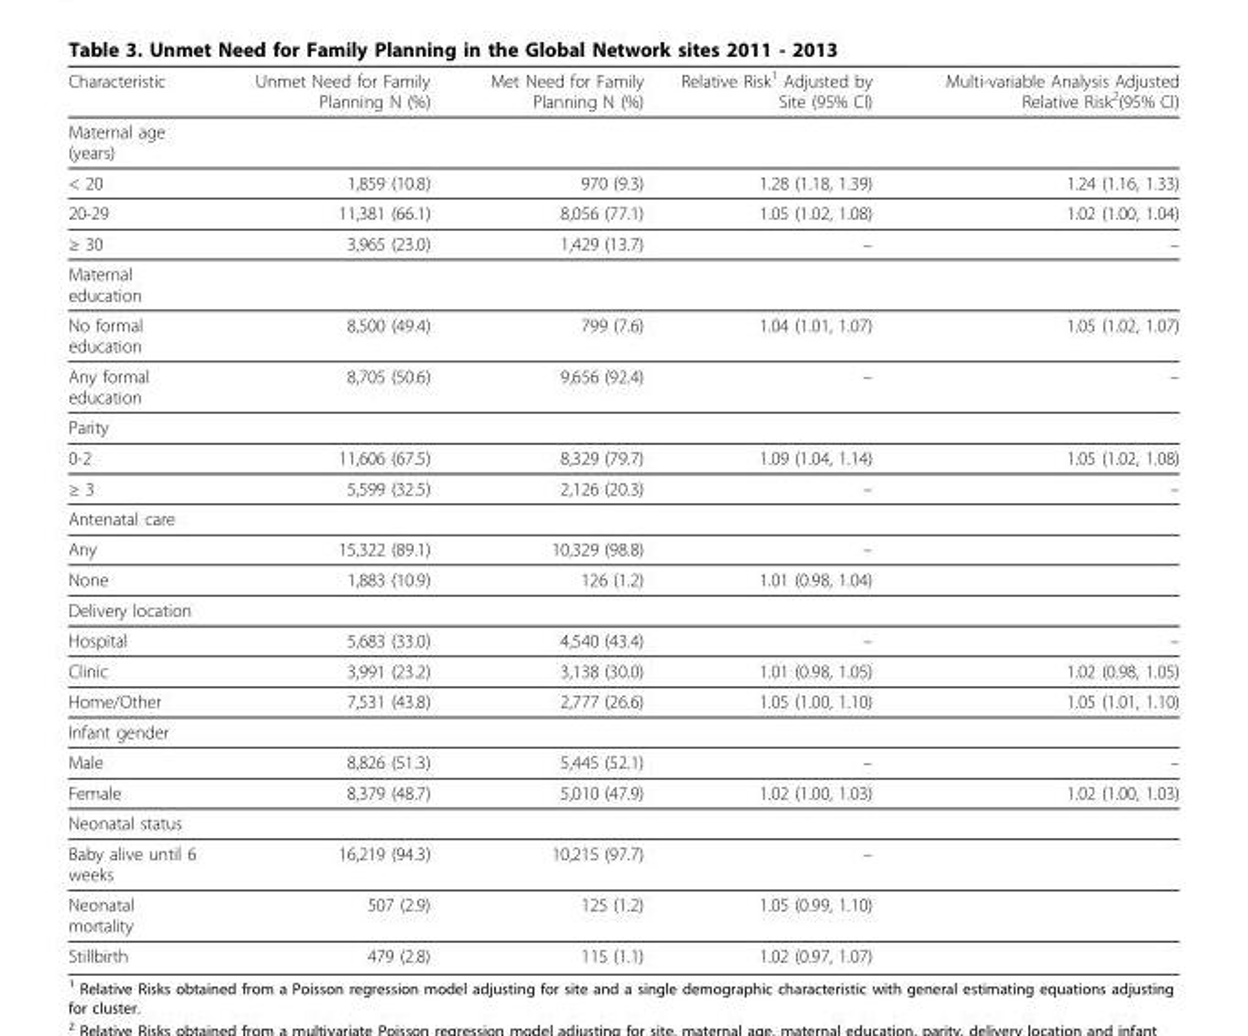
<table><thead><tr><td>Characteristic</td><td>Unmet Need for Family Planning N (%)</td><td>Met Need for Family Planning N (%)</td><td>Relative Risk1 Adjusted by Site (95% CI)</td><td>Multi-variable Analysis Adjusted Relative Risk2(95% CI)</td></tr></thead><tbody><tr><td colspan="5">Maternal age (years)</td></tr><tr><td>&lt; 20</td><td>1,859 (10.8)</td><td>970 (9.3)</td><td>1.28 (1.18, 1.39)</td><td>1.24 (1.16, 1.33)</td></tr><tr><td>20-29</td><td>11,381 (66.1)</td><td>8,056 (77.1)</td><td>1.05 (1.02, 1.08)</td><td>1.02 (1.00, 1.04)</td></tr><tr><td>≥ 30</td><td>3,965 (23.0)</td><td>1,429 (13.7)</td><td>–</td><td>–</td></tr><tr><td colspan="5">Maternal education</td></tr><tr><td>No formal education</td><td>8,500 (49.4)</td><td>799 (7.6)</td><td>1.04 (1.01, 1.07)</td><td>1.05 (1.02, 1.07)</td></tr><tr><td>Any formal education</td><td>8,705 (50.6)</td><td>9,656 (92.4)</td><td>–</td><td>–</td></tr><tr><td colspan="5">Parity</td></tr><tr><td>0-2</td><td>11,606 (67.5)</td><td>8,329 (79.7)</td><td>1.09 (1.04, 1.14)</td><td>1.05 (1.02, 1.08)</td></tr><tr><td>≥ 3</td><td>5,599 (32.5)</td><td>2,126 (20.3)</td><td>–</td><td>–</td></tr><tr><td colspan="5">Antenatal care</td></tr><tr><td>Any</td><td>15,322 (89.1)</td><td>10,329 (98.8)</td><td>–</td><td></td></tr><tr><td>None</td><td>1,883 (10.9)</td><td>126 (1.2)</td><td>1.01 (0.98, 1.04)</td><td></td></tr><tr><td colspan="5">Delivery location</td></tr><tr><td>Hospital</td><td>5,683 (33.0)</td><td>4,540 (43.4)</td><td>–</td><td>–</td></tr><tr><td>Clinic</td><td>3,991 (23.2)</td><td>3,138 (30.0)</td><td>1.01 (0.98, 1.05)</td><td>1.02 (0.98, 1.05)</td></tr><tr><td>Home/Other</td><td>7,531 (43.8)</td><td>2,777 (26.6)</td><td>1.05 (1.00, 1.10)</td><td>1.05 (1.01, 1.10)</td></tr><tr><td colspan="5">Infant gender</td></tr><tr><td>Male</td><td>8,826 (51.3)</td><td>5,445 (52.1)</td><td>–</td><td>–</td></tr><tr><td>Female</td><td>8,379 (48.7)</td><td>5,010 (47.9)</td><td>1.02 (1.00, 1.03)</td><td>1.02 (1.00, 1.03)</td></tr><tr><td colspan="5">Neonatal status</td></tr><tr><td>Baby alive until 6 weeks</td><td>16,219 (94.3)</td><td>10,215 (97.7)</td><td>–</td><td></td></tr><tr><td>Neonatal mortality</td><td>507 (2.9)</td><td>125 (1.2)</td><td>1.05 (0.99, 1.10)</td><td></td></tr><tr><td>Stillbirth</td><td>479 (2.8)</td><td>115 (1.1)</td><td>1.02 (0.97, 1.07)</td><td></td></tr></tbody></table>